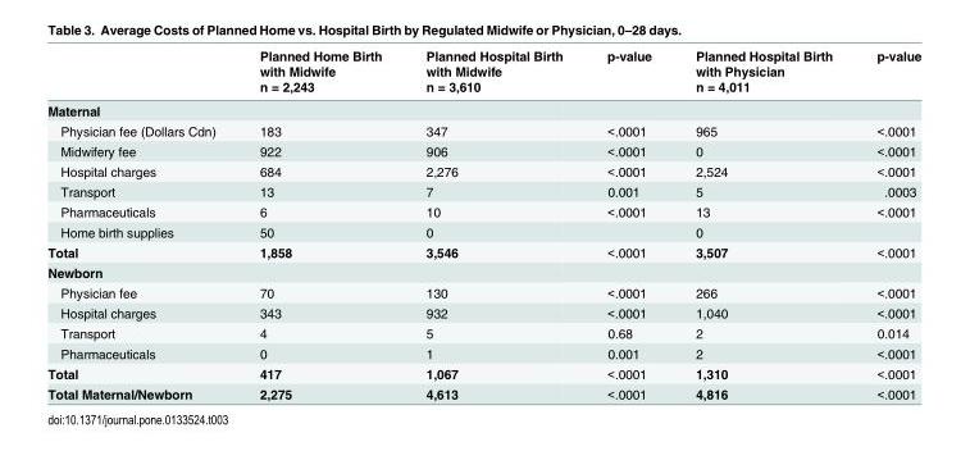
<table><thead><tr><td rowspan="2"></td><td rowspan="2">Planned Home Birth with Midwife n = 2,243</td><td rowspan="2">Planned Hospital Birth with Midwife n = 3,610</td><td rowspan="2">p-value</td><td rowspan="2">Planned Hospital Birth with Physician n = 4,011</td><td rowspan="2">p-value</td></tr><tr></tr></thead><tbody><tr><td colspan="6">Maternal</td></tr><tr><td>Physician fee (Dollars Cdn)</td><td>183</td><td>347</td><td>&lt;.0001</td><td>965</td><td>&lt;.0001</td></tr><tr><td>Midwifery fee</td><td>922</td><td>906</td><td>&lt;.0001</td><td>0</td><td>&lt;.0001</td></tr><tr><td>Hospital charges</td><td>684</td><td>2,276</td><td>&lt;.0001</td><td>2,524</td><td>&lt;.0001</td></tr><tr><td>Transport</td><td>13</td><td>7</td><td>0.001</td><td>5</td><td>.0003</td></tr><tr><td>Pharmaceuticals</td><td>6</td><td>10</td><td>&lt;.0001</td><td>13</td><td>&lt;.0001</td></tr><tr><td>Home birth supplies</td><td>50</td><td>0</td><td></td><td>0</td><td></td></tr><tr><td>Total</td><td>1,858</td><td>3,546</td><td>&lt;.0001</td><td>3,507</td><td>&lt;.0001</td></tr><tr><td colspan="6">Newborn</td></tr><tr><td>Physician fee</td><td>70</td><td>130</td><td>&lt;.0001</td><td>266</td><td>&lt;.0001</td></tr><tr><td>Hospital charges</td><td>343</td><td>932</td><td>&lt;.0001</td><td>1,040</td><td>&lt;.0001</td></tr><tr><td>Transport</td><td>4</td><td>5</td><td>0.68</td><td>2</td><td>0.014</td></tr><tr><td>Pharmaceuticals</td><td>0</td><td>1</td><td>0.001</td><td>2</td><td>&lt;.0001</td></tr><tr><td>Total</td><td>417</td><td>1,067</td><td>&lt;.0001</td><td>1,310</td><td>&lt;.0001</td></tr><tr><td>Total Maternal/Newborn</td><td>2,275</td><td>4,613</td><td>&lt;.0001</td><td>4,816</td><td>&lt;.0001</td></tr></tbody></table>